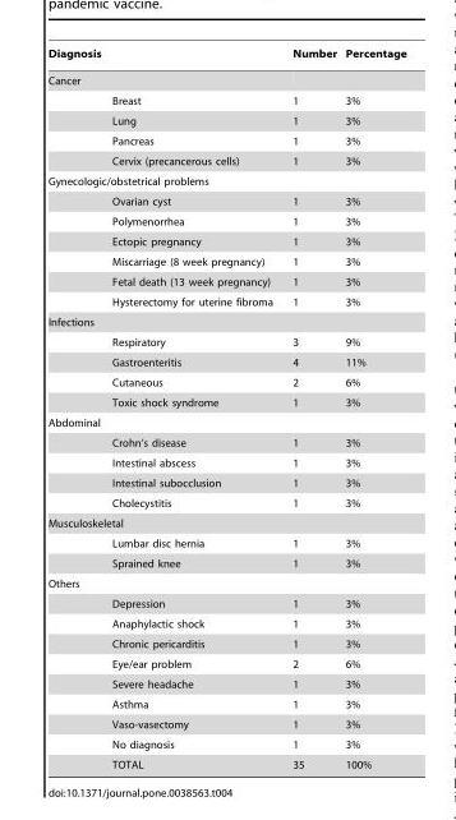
<table><thead><tr><td>Diagnosis</td><td></td><td>Number</td><td>Percentage</td></tr></thead><tbody><tr><td colspan="4">Cancer</td></tr><tr><td></td><td>Breast</td><td>1</td><td>3%</td></tr><tr><td></td><td>Lung</td><td>1</td><td>3%</td></tr><tr><td></td><td>Pancreas</td><td>1</td><td>3%</td></tr><tr><td></td><td>Cervix (precancerous cells)</td><td>1</td><td>3%</td></tr><tr><td colspan="4">Gynecologic/obstetrical problems</td></tr><tr><td></td><td>Ovarian cyst</td><td>1</td><td>3%</td></tr><tr><td></td><td>Polymenorrhea</td><td>1</td><td>3%</td></tr><tr><td></td><td>Ectopic pregnancy</td><td>1</td><td>3%</td></tr><tr><td></td><td>Miscarriage (8 week pregnancy)</td><td>1</td><td>3%</td></tr><tr><td></td><td>Fetal death (13 week pregnancy)</td><td>1</td><td>3%</td></tr><tr><td></td><td>Hysterectomy for uterine fibroma</td><td>1</td><td>3%</td></tr><tr><td colspan="4">Infections</td></tr><tr><td></td><td>Respiratory</td><td>3</td><td>9%</td></tr><tr><td></td><td>Gastroenteritis</td><td>4</td><td>11%</td></tr><tr><td></td><td>Cutaneous</td><td>2</td><td>6%</td></tr><tr><td></td><td>Toxic shock syndrome</td><td>1</td><td>3%</td></tr><tr><td colspan="4">Abdominal</td></tr><tr><td></td><td>Crohn’s disease</td><td>1</td><td>3%</td></tr><tr><td></td><td>Intestinal abscess</td><td>1</td><td>3%</td></tr><tr><td></td><td>Intestinal subocclusion</td><td>1</td><td>3%</td></tr><tr><td></td><td>Cholecystitis</td><td>1</td><td>3%</td></tr><tr><td colspan="4">Musculoskeletal</td></tr><tr><td></td><td>Lumbar disc hernia</td><td>1</td><td>3%</td></tr><tr><td></td><td>Sprained knee</td><td>1</td><td>3%</td></tr><tr><td colspan="4">Others</td></tr><tr><td></td><td>Depression</td><td>1</td><td>3%</td></tr><tr><td></td><td>Anaphylactic shock</td><td>1</td><td>3%</td></tr><tr><td></td><td>Chronic pericarditis</td><td>1</td><td>3%</td></tr><tr><td></td><td>Eye/ear problem</td><td>2</td><td>6%</td></tr><tr><td></td><td>Severe headache</td><td>1</td><td>3%</td></tr><tr><td></td><td>Asthma</td><td>1</td><td>3%</td></tr><tr><td></td><td>Vaso-vasectomy</td><td>1</td><td>3%</td></tr><tr><td></td><td>No diagnosis</td><td>1</td><td>3%</td></tr><tr><td></td><td>TOTAL</td><td>35</td><td>100%</td></tr></tbody></table>